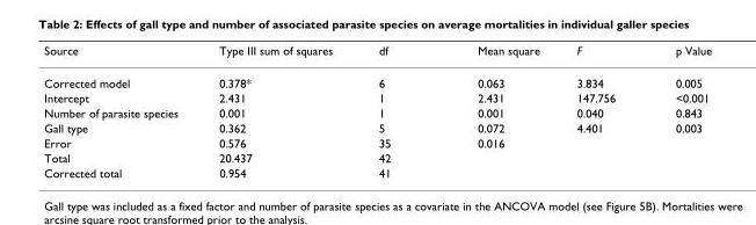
<table><thead><tr><td>Source</td><td>Type III sum of squares</td><td>df</td><td>Mean square</td><td>F</td><td>p Value</td></tr></thead><tbody><tr><td>Corrected model</td><td>0.378*</td><td>6</td><td>0.063</td><td>3.834</td><td>0.005</td></tr><tr><td>Intercept</td><td>2.431</td><td>1</td><td>2.431</td><td>147.756</td><td>&lt;0.001</td></tr><tr><td>Number of parasite species</td><td>0.001</td><td>1</td><td>0.001</td><td>0.040</td><td>0.843</td></tr><tr><td>Gall type</td><td>0.362</td><td>5</td><td>0.072</td><td>4.401</td><td>0.003</td></tr><tr><td>Error</td><td>0.576</td><td>35</td><td>0.016</td><td></td><td></td></tr><tr><td>Total</td><td>20.437</td><td>42</td><td></td><td></td><td></td></tr><tr><td>Corrected total</td><td>0.954</td><td>41</td><td></td><td></td><td></td></tr></tbody></table>